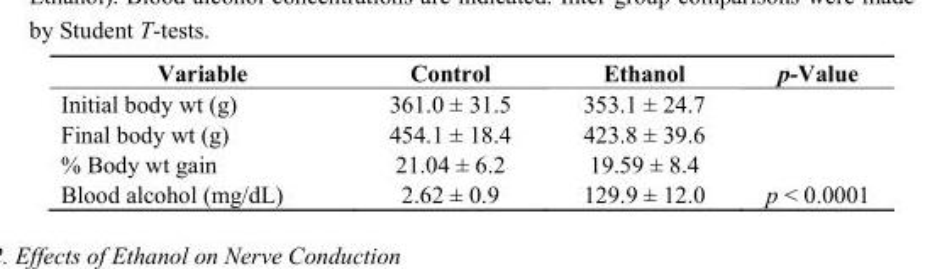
<table><thead><tr><td>Variable</td><td>Control</td><td>Ethanol</td><td>p-Value</td></tr></thead><tbody><tr><td>Initial body wt (g)</td><td>361.0 ± 31.5</td><td>353.1 ± 24.7</td><td></td></tr><tr><td>Final body wt (g)</td><td>454.1 ± 18.4</td><td>423.8 ± 39.6</td><td></td></tr><tr><td>% Body wt gain</td><td>21.04 ± 6.2</td><td>19.59 ± 8.4</td><td></td></tr><tr><td>Blood alcohol (mg/dL)</td><td>2.62 ± 0.9</td><td>129.9 ± 12.0</td><td>p &lt; 0.0001</td></tr></tbody></table>